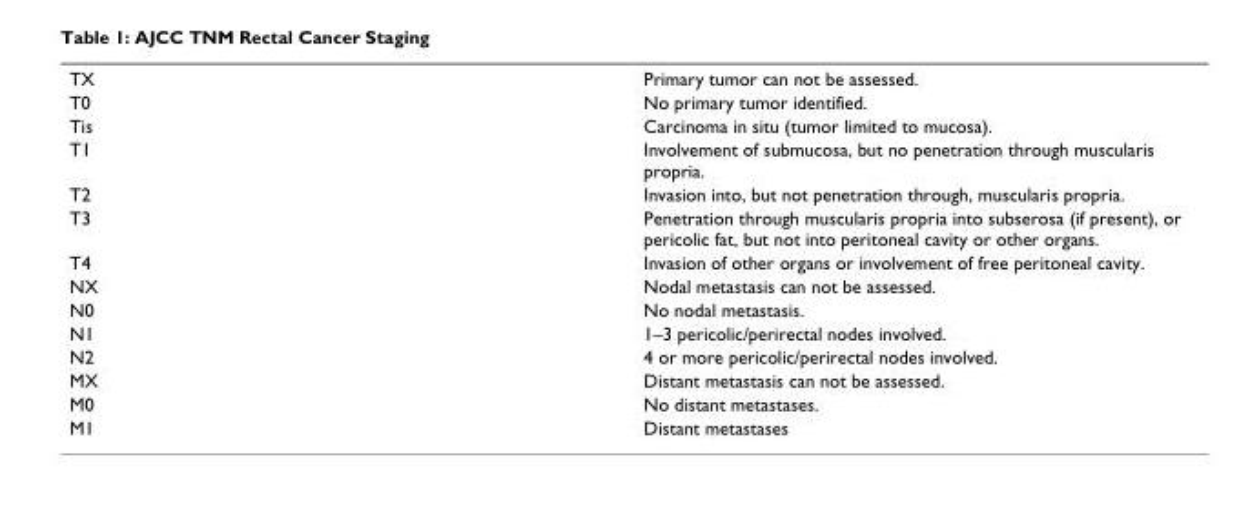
<table><tbody><tr><td>TX</td><td>Primary tumor can not be assessed.</td></tr><tr><td>T0</td><td>No primary tumor identified.</td></tr><tr><td>Tis</td><td>Carcinoma in situ (tumor limited to mucosa).</td></tr><tr><td>T1</td><td>Involvement of submucosa, but no penetration through muscularis propria.</td></tr><tr><td>T2</td><td>Invasion into, but not penetration through, muscularis propria.</td></tr><tr><td>T3</td><td>Penetration through muscularis propria into subserosa (if present), or pericolic fat, but not into peritoneal cavity or other organs.</td></tr><tr><td>T4</td><td>Invasion of other organs or involvement of free peritoneal cavity.</td></tr><tr><td>NX</td><td>Nodal metastasis can not be assessed.</td></tr><tr><td>N0</td><td>No nodal metastasis.</td></tr><tr><td>N1</td><td>1–3 pericolic/perirectal nodes involved.</td></tr><tr><td>N2</td><td>4 or more pericolic/perirectal nodes involved.</td></tr><tr><td>MX</td><td>Distant metastasis can not be assessed.</td></tr><tr><td>M0</td><td>No distant metastases.</td></tr><tr><td>M1</td><td>Distant metastases</td></tr></tbody></table>